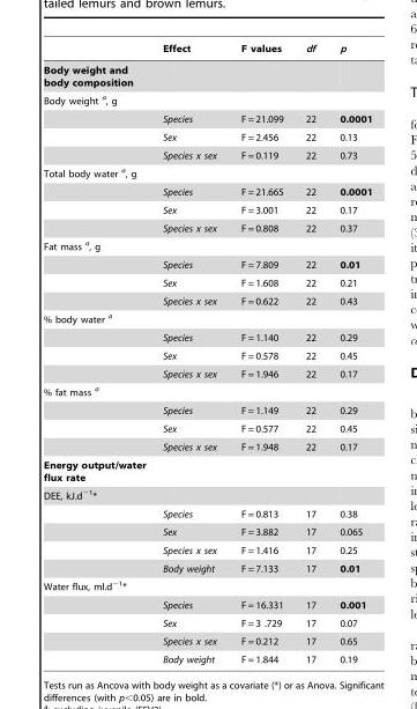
<table><thead><tr><td></td><td>Effect</td><td>F values</td><td>df</td><td>p</td></tr></thead><tbody><tr><td colspan="5">Body weight and body composition</td></tr><tr><td colspan="5">Body weight a, g</td></tr><tr><td></td><td>Species</td><td>F = 21.099</td><td>22</td><td>0.0001</td></tr><tr><td></td><td>Sex</td><td>F = 2.456</td><td>22</td><td>0.13</td></tr><tr><td></td><td>Species x sex</td><td>F = 0.119</td><td>22</td><td>0.73</td></tr><tr><td colspan="5">Total body water a, g</td></tr><tr><td></td><td>Species</td><td>F = 21.665</td><td>22</td><td>0.0001</td></tr><tr><td></td><td>Sex</td><td>F = 3.001</td><td>22</td><td>0.17</td></tr><tr><td></td><td>Species x sex</td><td>F = 0.808</td><td>22</td><td>0.37</td></tr><tr><td colspan="5">Fat mass a, g</td></tr><tr><td></td><td>Species</td><td>F = 7.809</td><td>22</td><td>0.01</td></tr><tr><td></td><td>Sex</td><td>F = 1.608</td><td>22</td><td>0.21</td></tr><tr><td></td><td>Species x sex</td><td>F = 0.622</td><td>22</td><td>0.43</td></tr><tr><td colspan="5">% body water a</td></tr><tr><td></td><td>Species</td><td>F = 1.140</td><td>22</td><td>0.29</td></tr><tr><td></td><td>Sex</td><td>F = 0.578</td><td>22</td><td>0.45</td></tr><tr><td></td><td>Species x sex</td><td>F = 1.946</td><td>22</td><td>0.17</td></tr><tr><td colspan="5">% fat mass a</td></tr><tr><td></td><td>Species</td><td>F = 1.149</td><td>22</td><td>0.29</td></tr><tr><td></td><td>Sex</td><td>F = 0.577</td><td>22</td><td>0.45</td></tr><tr><td></td><td>Species x sex</td><td>F = 1.948</td><td>22</td><td>0.17</td></tr><tr><td colspan="5">Energy output/water flux rate</td></tr><tr><td colspan="5">DEE, kJ.d<sup>−1</sup>*</td></tr><tr><td></td><td>Species</td><td>F = 0.813</td><td>17</td><td>0.38</td></tr><tr><td></td><td>Sex</td><td>F = 3.882</td><td>17</td><td>0.065</td></tr><tr><td></td><td>Species x sex</td><td>F = 1.416</td><td>17</td><td>0.25</td></tr><tr><td></td><td>Body weight</td><td>F = 7.133</td><td>17</td><td>0.01</td></tr><tr><td colspan="5">Water flux, ml.d<sup>−1</sup>*</td></tr><tr><td></td><td>Species</td><td>F = 16.331</td><td>17</td><td>0.001</td></tr><tr><td></td><td>Sex</td><td>F = 3 .729</td><td>17</td><td>0.07</td></tr><tr><td></td><td>Species x sex</td><td>F = 0.212</td><td>17</td><td>0.65</td></tr><tr><td></td><td>Body weight</td><td>F = 1.844</td><td>17</td><td>0.19</td></tr></tbody></table>